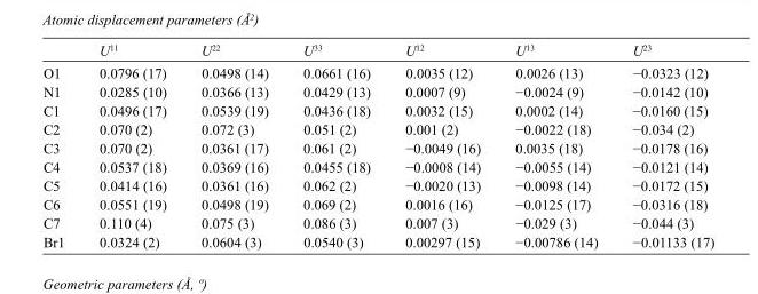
<table><thead><tr><td></td><td>U<sup>11</sup></td><td>U<sup>22</sup></td><td>U<sup>33</sup></td><td>U<sup>12</sup></td><td>U<sup>13</sup></td><td>U<sup>23</sup></td></tr></thead><tbody><tr><td>O1</td><td>0.0796 (17)</td><td>0.0498 (14)</td><td>0.0661 (16)</td><td>0.0035 (12)</td><td>0.0026 (13)</td><td>−0.0323 (12)</td></tr><tr><td>N1</td><td>0.0285 (10)</td><td>0.0366 (13)</td><td>0.0429 (13)</td><td>0.0007 (9)</td><td>−0.0024 (9)</td><td>−0.0142 (10)</td></tr><tr><td>C1</td><td>0.0496 (17)</td><td>0.0539 (19)</td><td>0.0436 (18)</td><td>0.0032 (15)</td><td>0.0002 (14)</td><td>−0.0160 (15)</td></tr><tr><td>C2</td><td>0.070 (2)</td><td>0.072 (3)</td><td>0.051 (2)</td><td>0.001 (2)</td><td>−0.0022 (18)</td><td>−0.034 (2)</td></tr><tr><td>C3</td><td>0.070 (2)</td><td>0.0361 (17)</td><td>0.061 (2)</td><td>−0.0049 (16)</td><td>0.0035 (18)</td><td>−0.0178 (16)</td></tr><tr><td>C4</td><td>0.0537 (18)</td><td>0.0369 (16)</td><td>0.0455 (18)</td><td>−0.0008 (14)</td><td>−0.0055 (14)</td><td>−0.0121 (14)</td></tr><tr><td>C5</td><td>0.0414 (16)</td><td>0.0361 (16)</td><td>0.062 (2)</td><td>−0.0020 (13)</td><td>−0.0098 (14)</td><td>−0.0172 (15)</td></tr><tr><td>C6</td><td>0.0551 (19)</td><td>0.0498 (19)</td><td>0.069 (2)</td><td>0.0016 (16)</td><td>−0.0125 (17)</td><td>−0.0316 (18)</td></tr><tr><td>C7</td><td>0.110 (4)</td><td>0.075 (3)</td><td>0.086 (3)</td><td>0.007 (3)</td><td>−0.029 (3)</td><td>−0.044 (3)</td></tr><tr><td>Br1</td><td>0.0324 (2)</td><td>0.0604 (3)</td><td>0.0540 (3)</td><td>0.00297 (15)</td><td>−0.00786 (14)</td><td>−0.01133 (17)</td></tr></tbody></table>